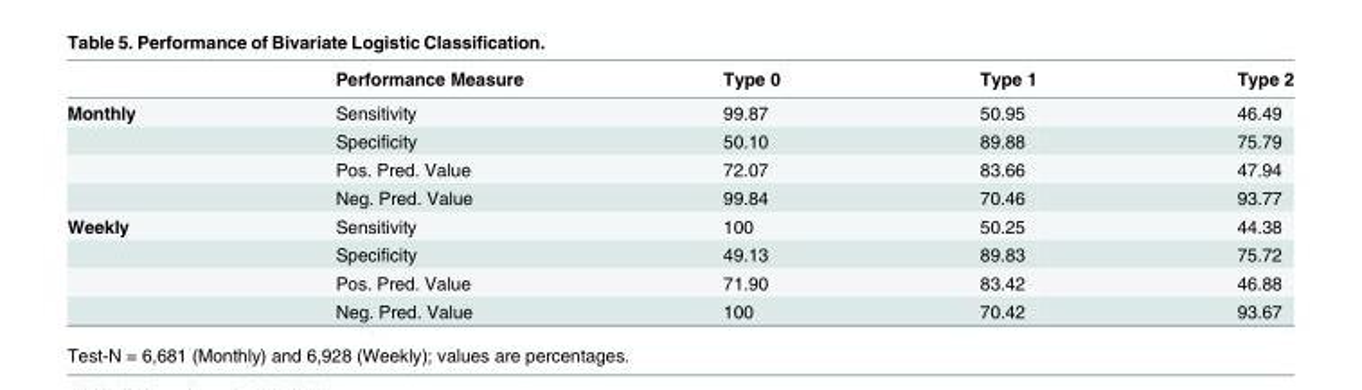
<table><thead><tr><td></td><td>Performance Measure</td><td>Type 0</td><td>Type 1</td><td>Type 2</td></tr></thead><tbody><tr><td rowspan="4">Monthly</td><td>Sensitivity</td><td>99.87</td><td>50.95</td><td>46.49</td></tr><tr><td>Specificity</td><td>50.10</td><td>89.88</td><td>75.79</td></tr><tr><td>Pos. Pred. Value</td><td>72.07</td><td>83.66</td><td>47.94</td></tr><tr><td>Neg. Pred. Value</td><td>99.84</td><td>70.46</td><td>93.77</td></tr><tr><td rowspan="4">Weekly</td><td>Sensitivity</td><td>100</td><td>50.25</td><td>44.38</td></tr><tr><td>Specificity</td><td>49.13</td><td>89.83</td><td>75.72</td></tr><tr><td>Pos. Pred. Value</td><td>71.90</td><td>83.42</td><td>46.88</td></tr><tr><td>Neg. Pred. Value</td><td>100</td><td>70.42</td><td>93.67</td></tr></tbody></table>